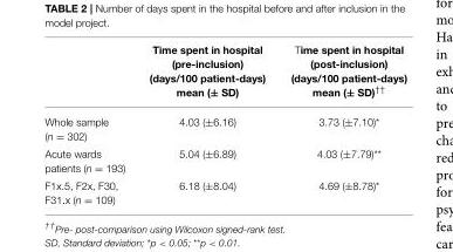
<table><thead><tr><td></td><td>Time spent in hospital (pre-inclusion) (days/100 patient-days) mean (± SD)</td><td>Time spent in hospital (post-inclusion) (days/100 patient-days) mean (± SD)<sup>††</sup></td></tr></thead><tbody><tr><td>Whole sample (n = 302)</td><td>4.03 (±6.16)</td><td>3.73 (±7.10)*</td></tr><tr><td>Acute wards patients (n = 193)</td><td>5.04 (±6.89)</td><td>4.03 (±7.79)**</td></tr><tr><td>F1x.5, F2x, F30, F31.x (n = 109)</td><td>6.18 (±8.04)</td><td>4.69 (±8.78)*</td></tr></tbody></table>